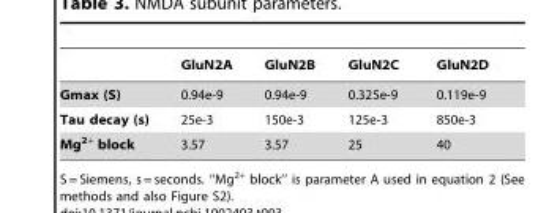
<table><thead><tr><td></td><td>GluN2A</td><td>GluN2B</td><td>GluN2C</td><td>GluN2D</td></tr></thead><tbody><tr><td>Gmax (S)</td><td>0.94e-9</td><td>0.94e-9</td><td>0.325e-9</td><td>0.119e-9</td></tr><tr><td>Tau decay (s)</td><td>25e-3</td><td>150e-3</td><td>125e-3</td><td>850e-3</td></tr><tr><td>Mg<sup>2+</sup> block</td><td>3.57</td><td>3.57</td><td>25</td><td>40</td></tr></tbody></table>